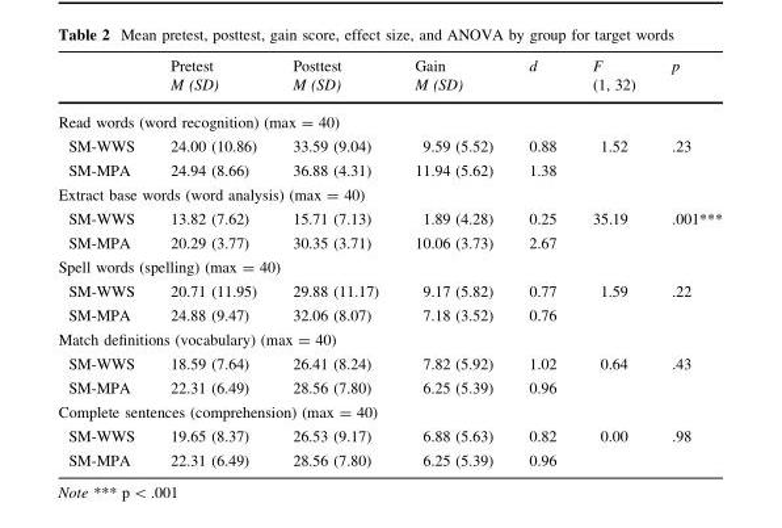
<table><thead><tr><td rowspan="2"></td><td rowspan="2">Pretest M (SD)</td><td rowspan="2">Posttest M (SD)</td><td rowspan="2">Gain M (SD)</td><td rowspan="2">d</td><td rowspan="2">F (1, 32)</td><td rowspan="2">p</td></tr><tr></tr></thead><tbody><tr><td colspan="7">Read words (word recognition) (max = 40)</td></tr><tr><td>SM-WWS</td><td>24.00 (10.86)</td><td>33.59 (9.04)</td><td>9.59 (5.52)</td><td>0.88</td><td>1.52</td><td>.23</td></tr><tr><td>SM-MPA</td><td>24.94 (8.66)</td><td>36.88 (4.31)</td><td>11.94 (5.62)</td><td>1.38</td><td></td><td></td></tr><tr><td colspan="7">Extract base words (word analysis) (max = 40)</td></tr><tr><td>SM-WWS</td><td>13.82 (7.62)</td><td>15.71 (7.13)</td><td>1.89 (4.28)</td><td>0.25</td><td>35.19</td><td>.001***</td></tr><tr><td>SM-MPA</td><td>20.29 (3.77)</td><td>30.35 (3.71)</td><td>10.06 (3.73)</td><td>2.67</td><td></td><td></td></tr><tr><td colspan="7">Spell words (spelling) (max = 40)</td></tr><tr><td>SM-WWS</td><td>20.71 (11.95)</td><td>29.88 (11.17)</td><td>9.17 (5.82)</td><td>0.77</td><td>1.59</td><td>.22</td></tr><tr><td>SM-MPA</td><td>24.88 (9.47)</td><td>32.06 (8.07)</td><td>7.18 (3.52)</td><td>0.76</td><td></td><td></td></tr><tr><td colspan="7">Match definitions (vocabulary) (max = 40)</td></tr><tr><td>SM-WWS</td><td>18.59 (7.64)</td><td>26.41 (8.24)</td><td>7.82 (5.92)</td><td>1.02</td><td>0.64</td><td>.43</td></tr><tr><td>SM-MPA</td><td>22.31 (6.49)</td><td>28.56 (7.80)</td><td>6.25 (5.39)</td><td>0.96</td><td></td><td></td></tr><tr><td colspan="7">Complete sentences (comprehension) (max = 40)</td></tr><tr><td>SM-WWS</td><td>19.65 (8.37)</td><td>26.53 (9.17)</td><td>6.88 (5.63)</td><td>0.82</td><td>0.00</td><td>.98</td></tr><tr><td>SM-MPA</td><td>22.31 (6.49)</td><td>28.56 (7.80)</td><td>6.25 (5.39)</td><td>0.96</td><td></td><td></td></tr></tbody></table>